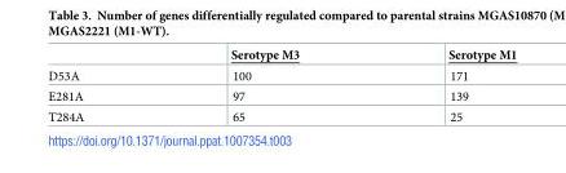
<table><thead><tr><td></td><td>Serotype M3</td><td>Serotype M1</td></tr></thead><tbody><tr><td>D53A</td><td>100</td><td>171</td></tr><tr><td>E281A</td><td>97</td><td>139</td></tr><tr><td>T284A</td><td>65</td><td>25</td></tr></tbody></table>